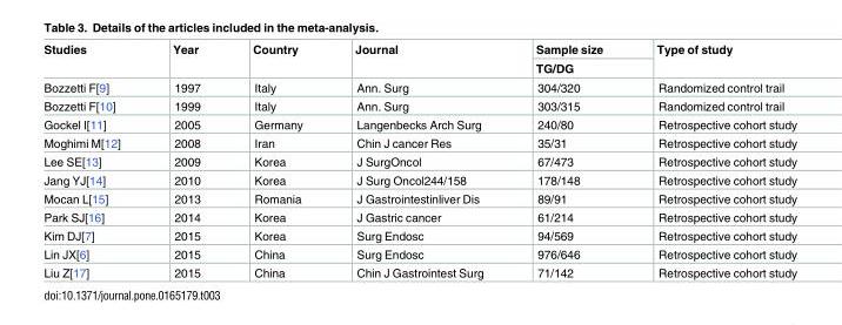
<table><thead><tr><td rowspan="2">Studies</td><td rowspan="2">Year</td><td rowspan="2">Country</td><td rowspan="2">Journal</td><td rowspan="2">Sample size TG/DG</td><td rowspan="2">Type of study</td></tr><tr></tr></thead><tbody><tr><td>Bozzetti F[9]</td><td>1997</td><td>Italy</td><td>Ann. Surg</td><td>304/320</td><td>Randomized control trail</td></tr><tr><td>Bozzetti F[10]</td><td>1999</td><td>Italy</td><td>Ann. Surg</td><td>303/315</td><td>Randomized control trail</td></tr><tr><td>Gockel I[11]</td><td>2005</td><td>Germany</td><td>Langenbecks Arch Surg</td><td>240/80</td><td>Retrospective cohort study</td></tr><tr><td>Moghimi M[12]</td><td>2008</td><td>Iran</td><td>Chin J cancer Res</td><td>35/31</td><td>Retrospective cohort study</td></tr><tr><td>Lee SE[13]</td><td>2009</td><td>Korea</td><td>J SurgOncol</td><td>67/473</td><td>Retrospective cohort study</td></tr><tr><td>Jang YJ[14]</td><td>2010</td><td>Korea</td><td>J Surg Oncol244/158</td><td>178/148</td><td>Retrospective cohort study</td></tr><tr><td>Mocan L[15]</td><td>2013</td><td>Romania</td><td>J Gastrointestinliver Dis</td><td>89/91</td><td>Retrospective cohort study</td></tr><tr><td>Park SJ[16]</td><td>2014</td><td>Korea</td><td>J Gastric cancer</td><td>61/214</td><td>Retrospective cohort study</td></tr><tr><td>Kim DJ[7]</td><td>2015</td><td>Korea</td><td>Surg Endosc</td><td>94/569</td><td>Retrospective cohort study</td></tr><tr><td>Lin JX[6]</td><td>2015</td><td>China</td><td>Surg Endosc</td><td>976/646</td><td>Retrospective cohort study</td></tr><tr><td>Liu Z[17]</td><td>2015</td><td>China</td><td>Chin J Gastrointest Surg</td><td>71/142</td><td>Retrospective cohort study</td></tr></tbody></table>